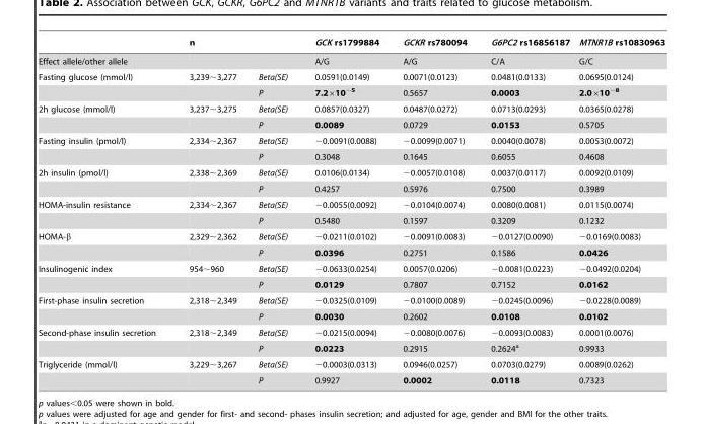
<table><thead><tr><td></td><td>n</td><td></td><td>GCK rs1799884</td><td>GCKR rs780094</td><td>G6PC2 rs16856187</td><td>MTNR1B rs10830963</td></tr></thead><tbody><tr><td>Effect allele/other allele</td><td></td><td></td><td>A/G</td><td>A/G</td><td>C/A</td><td>G/C</td></tr><tr><td rowspan="2">Fasting glucose (mmol/l)</td><td>3,239∼3,277</td><td>Beta(SE)</td><td>0.0591(0.0149)</td><td>0.0071(0.0123)</td><td>0.0481(0.0133)</td><td>0.0695(0.0124)</td></tr><tr><td></td><td>P</td><td>7.2×10<sup>−5</sup></td><td>0.5657</td><td>0.0003</td><td>2.0×10<sup>−8</sup></td></tr><tr><td rowspan="2">2h glucose (mmol/l)</td><td>3,237∼3,275</td><td>Beta(SE)</td><td>0.0857(0.0327)</td><td>0.0487(0.0272)</td><td>0.0713(0.0293)</td><td>0.0365(0.0278)</td></tr><tr><td></td><td>P</td><td>0.0089</td><td>0.0729</td><td>0.0153</td><td>0.5705</td></tr><tr><td rowspan="2">Fasting insulin (pmol/l)</td><td>2,334∼2,367</td><td>Beta(SE)</td><td>−0.0091(0.0088)</td><td>−0.0099(0.0071)</td><td>0.0040(0.0078)</td><td>0.0053(0.0072)</td></tr><tr><td></td><td>P</td><td>0.3048</td><td>0.1645</td><td>0.6055</td><td>0.4608</td></tr><tr><td rowspan="2">2h insulin (pmol/l)</td><td>2,338∼2,369</td><td>Beta(SE)</td><td>0.0106(0.0134)</td><td>−0.0057(0.0108)</td><td>0.0037(0.0117)</td><td>0.0092(0.0109)</td></tr><tr><td></td><td>P</td><td>0.4257</td><td>0.5976</td><td>0.7500</td><td>0.3989</td></tr><tr><td rowspan="2">HOMA-insulin resistance</td><td>2,334∼2,367</td><td>Beta(SE)</td><td>−0.0055(0.0092)</td><td>−0.0104(0.0074)</td><td>0.0080(0.0081)</td><td>0.0115(0.0074)</td></tr><tr><td></td><td>P</td><td>0.5480</td><td>0.1597</td><td>0.3209</td><td>0.1232</td></tr><tr><td rowspan="2">HOMA-β</td><td>2,329∼2,362</td><td>Beta(SE)</td><td>−0.0211(0.0102)</td><td>−0.0091(0.0083)</td><td>−0.0127(0.0090)</td><td>−0.0169(0.0083)</td></tr><tr><td></td><td>P</td><td>0.0396</td><td>0.2751</td><td>0.1586</td><td>0.0426</td></tr><tr><td rowspan="2">Insulinogenic index</td><td>954∼960</td><td>Beta(SE)</td><td>−0.0633(0.0254)</td><td>0.0057(0.0206)</td><td>−0.0081(0.0223)</td><td>−0.0492(0.0204)</td></tr><tr><td></td><td>P</td><td>0.0129</td><td>0.7807</td><td>0.7152</td><td>0.0162</td></tr><tr><td rowspan="2">First-phase insulin secretion</td><td>2,318∼2,349</td><td>Beta(SE)</td><td>−0.0325(0.0109)</td><td>−0.0100(0.0089)</td><td>−0.0245(0.0096)</td><td>−0.0228(0.0089)</td></tr><tr><td></td><td>P</td><td>0.0030</td><td>0.2602</td><td>0.0108</td><td>0.0102</td></tr><tr><td rowspan="2">Second-phase insulin secretion</td><td>2,318∼2,349</td><td>Beta(SE)</td><td>−0.0215(0.0094)</td><td>−0.0080(0.0076)</td><td>−0.0093(0.0083)</td><td>0.0001(0.0076)</td></tr><tr><td></td><td>P</td><td>0.0223</td><td>0.2915</td><td>0.2624<sup>a</sup></td><td>0.9933</td></tr><tr><td rowspan="2">Triglyceride (mmol/l)</td><td>3,229∼3,267</td><td>Beta(SE)</td><td>−0.0003(0.0313)</td><td>0.0946(0.0257)</td><td>0.0703(0.0279)</td><td>0.0089(0.0262)</td></tr><tr><td></td><td>P</td><td>0.9927</td><td>0.0002</td><td>0.0118</td><td>0.7323</td></tr></tbody></table>